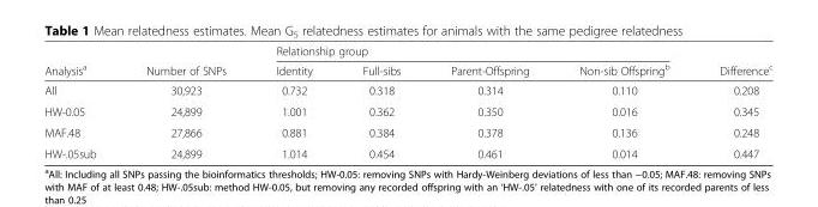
<table><thead><tr><td rowspan="2">Analysis<sup>a</sup></td><td rowspan="2">Number of SNPs</td><td colspan="4">Relationship group</td><td rowspan="2">Difference<sup>c</sup></td></tr><tr><td>Identity</td><td>Full-sibs</td><td>Parent-Offspring</td><td>Non-sib Offspring<sup>b</sup></td></tr></thead><tbody><tr><td>All</td><td>30,923</td><td>0.732</td><td>0.318</td><td>0.314</td><td>0.110</td><td>0.208</td></tr><tr><td>HW-0.05</td><td>24,899</td><td>1.001</td><td>0.362</td><td>0.350</td><td>0.016</td><td>0.345</td></tr><tr><td>MAF.48</td><td>27,866</td><td>0.881</td><td>0.384</td><td>0.378</td><td>0.136</td><td>0.248</td></tr><tr><td>HW-.05sub</td><td>24,899</td><td>1.014</td><td>0.454</td><td>0.461</td><td>0.014</td><td>0.447</td></tr></tbody></table>